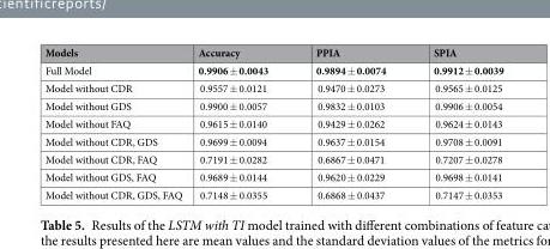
<table><thead><tr><td>Models</td><td>Accuracy</td><td>PPIA</td><td>SPIA</td></tr></thead><tbody><tr><td>Full Model</td><td>0.9906 ± 0.0043</td><td>0.9894 ± 0.0074</td><td>0.9912 ± 0.0039</td></tr><tr><td>Model without CDR</td><td>0.9557 ± 0.0121</td><td>0.9470 ± 0.0273</td><td>0.9565 ± 0.0125</td></tr><tr><td>Model without GDS</td><td>0.9900 ± 0.0057</td><td>0.9832 ± 0.0103</td><td>0.9906 ± 0.0054</td></tr><tr><td>Model without FAQ</td><td>0.9615 ± 0.0140</td><td>0.9429 ± 0.0262</td><td>0.9624 ± 0.0143</td></tr><tr><td>Model without CDR, GDS</td><td>0.9699 ± 0.0094</td><td>0.9637 ± 0.0154</td><td>0.9708 ± 0.0091</td></tr><tr><td>Model without CDR, FAQ</td><td>0.7191 ± 0.0282</td><td>0.6867 ± 0.0471</td><td>0.7207 ± 0.0278</td></tr><tr><td>Model without GDS, FAQ</td><td>0.9689 ± 0.0144</td><td>0.9620 ± 0.0229</td><td>0.9698 ± 0.0141</td></tr><tr><td>Model without CDR, GDS, FAQ</td><td>0.7148 ± 0.0355</td><td>0.6868 ± 0.0437</td><td>0.7147 ± 0.0353</td></tr></tbody></table>